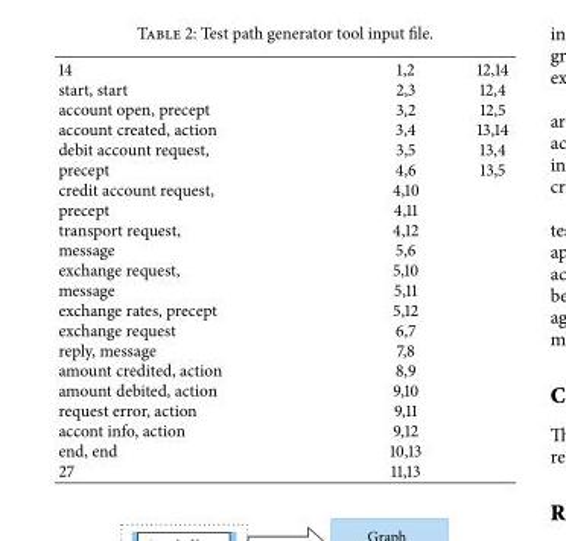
<table><tbody><tr><td>14 start, start account open, precept account created, action debit account request, precept credit account request, precept transport request, message exchange request, message exchange rates, precept exchange request reply, message amount credited, action amount debited, action request error, action accont info, action end, end 27</td><td>1,2 2,3 3,2 3,4 3,5 4,6 4,10 4,11 4,12 5,6 5,10 5,11 5,12 6,7 7,8 8,9 9,10 9,11 9,12 10,13 11,13</td><td>12,14 12,4 12,5 13,14 13,4 13,5</td></tr></tbody></table>